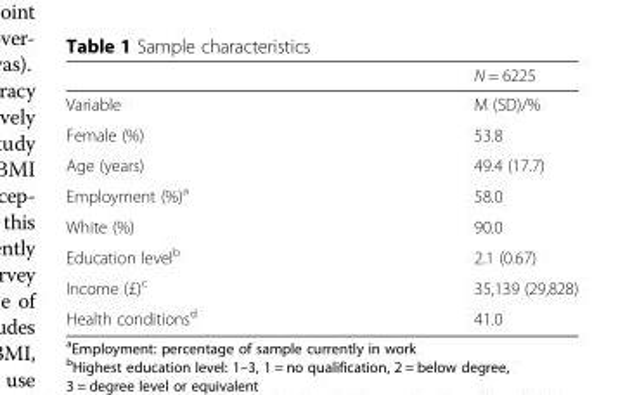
<table><thead><tr><td></td><td>N = 6225</td></tr></thead><tbody><tr><td>Variable</td><td>M (SD)/%</td></tr><tr><td>Female (%)</td><td>53.8</td></tr><tr><td>Age (years)</td><td>49.4 (17.7)</td></tr><tr><td>Employment (%)<sup>a</sup></td><td>58.0</td></tr><tr><td>White (%)</td><td>90.0</td></tr><tr><td>Education level<sup>b</sup></td><td>2.1 (0.67)</td></tr><tr><td>Income (£)<sup>c</sup></td><td>35,139 (29,828)</td></tr><tr><td>Health conditions<sup>d</sup></td><td>41.0</td></tr></tbody></table>